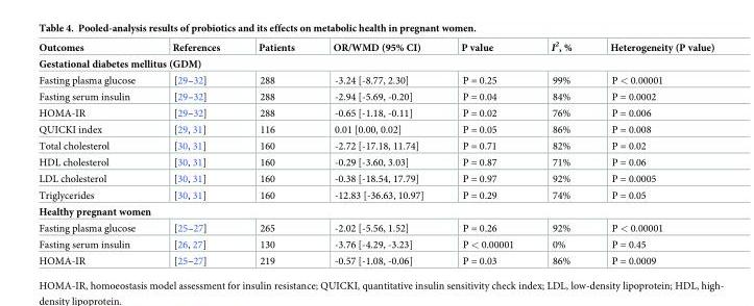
<table><thead><tr><td>Outcomes</td><td>References</td><td>Patients</td><td>OR/WMD (95% CI)</td><td>P value</td><td>I<sup>2</sup>, %</td><td>Heterogeneity (P value)</td></tr></thead><tbody><tr><td colspan="7">Gestational diabetes mellitus (GDM)</td></tr><tr><td>Fasting plasma glucose</td><td>[29–32]</td><td>288</td><td>-3.24 [-8.77, 2.30]</td><td>P = 0.25</td><td>99%</td><td>P &lt; 0.00001</td></tr><tr><td>Fasting serum insulin</td><td>[29–32]</td><td>288</td><td>-2.94 [-5.69, -0.20]</td><td>P = 0.04</td><td>84%</td><td>P = 0.0002</td></tr><tr><td>HOMA-IR</td><td>[29–32]</td><td>288</td><td>-0.65 [-1.18, -0.11]</td><td>P = 0.02</td><td>76%</td><td>P = 0.006</td></tr><tr><td>QUICKI index</td><td>[29, 31]</td><td>116</td><td>0.01 [0.00, 0.02]</td><td>P = 0.05</td><td>86%</td><td>P = 0.008</td></tr><tr><td>Total cholesterol</td><td>[30, 31]</td><td>160</td><td>-2.72 [-17.18, 11.74]</td><td>P = 0.71</td><td>82%</td><td>P = 0.02</td></tr><tr><td>HDL cholesterol</td><td>[30, 31]</td><td>160</td><td>-0.29 [-3.60, 3.03]</td><td>P = 0.87</td><td>71%</td><td>P = 0.06</td></tr><tr><td>LDL cholesterol</td><td>[30, 31]</td><td>160</td><td>-0.38 [-18.54, 17.79]</td><td>P = 0.97</td><td>92%</td><td>P = 0.0005</td></tr><tr><td>Triglycerides</td><td>[30, 31]</td><td>160</td><td>-12.83 [-36.63, 10.97]</td><td>P = 0.29</td><td>74%</td><td>P = 0.05</td></tr><tr><td colspan="7">Healthy pregnant women</td></tr><tr><td>Fasting plasma glucose</td><td>[25–27]</td><td>265</td><td>-2.02 [-5.56, 1.52]</td><td>P = 0.26</td><td>92%</td><td>P &lt; 0.00001</td></tr><tr><td>Fasting serum insulin</td><td>[26, 27]</td><td>130</td><td>-3.76 [-4.29, -3.23]</td><td>P &lt; 0.00001</td><td>0%</td><td>P = 0.45</td></tr><tr><td>HOMA-IR</td><td>[25–27]</td><td>219</td><td>-0.57 [-1.08, -0.06]</td><td>P = 0.03</td><td>86%</td><td>P = 0.0009</td></tr></tbody></table>